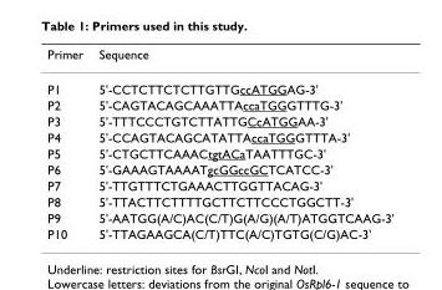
<table><thead><tr><td>Primer</td><td>Sequence</td></tr></thead><tbody><tr><td>P1</td><td>5&#x27;-CCTCTTCTCTTGTTGccATGGAG-3&#x27;</td></tr><tr><td>P2</td><td>5&#x27;-CAGTACAGCAAATTAccaTGGGTTTG-3&#x27;</td></tr><tr><td>P3</td><td>5&#x27;-TTTCCCTGTCTTATTGCcATGGAA-3&#x27;</td></tr><tr><td>P4</td><td>5&#x27;-CCAGTACAGCATATTAccaTGGGTTTA-3&#x27;</td></tr><tr><td>P5</td><td>5&#x27;-CTGCTTCAAACtgtACaTAATTTGC-3&#x27;</td></tr><tr><td>P6</td><td>5&#x27;-GAAAGTAAAATgcGGccGCTCATCC-3&#x27;</td></tr><tr><td>P7</td><td>5&#x27;-TTGTTTCTGAAACTTGGTTACAG-3&#x27;</td></tr><tr><td>P8</td><td>5&#x27;-TTACTTCTTTTGCTTCTTCCCTGGCTT-3&#x27;</td></tr><tr><td>P9</td><td>5&#x27;-AATGG(A/C)AC(C/T)G(A/G)(A/T)ATGGTCAAG-3&#x27;</td></tr><tr><td>P10</td><td>5&#x27;-TTAGAAGCA(C/T)TTC(A/C)TGTG(C/G)AC-3&#x27;</td></tr></tbody></table>